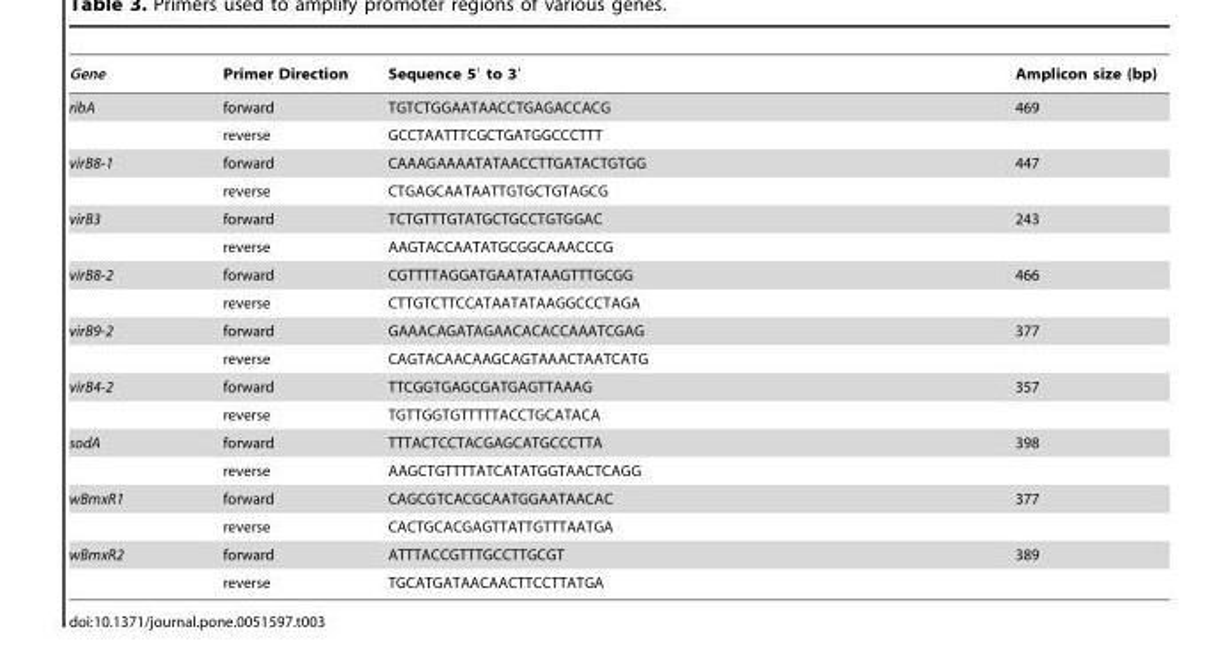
<table><thead><tr><td>Gene</td><td>Primer Direction</td><td>Sequence 5′ to 3′</td><td>Amplicon size (bp)</td></tr></thead><tbody><tr><td rowspan="2">ribA</td><td>forward</td><td>TGTCTGGAATAACCTGAGACCACG</td><td>469</td></tr><tr><td>reverse</td><td>GCCTAATTTCGCTGATGGCCCTTT</td><td></td></tr><tr><td rowspan="2">virB8-1</td><td>forward</td><td>CAAAGAAAATATAACCTTGATACTGTGG</td><td>447</td></tr><tr><td>reverse</td><td>CTGAGCAATAATTGTGCTGTAGCG</td><td></td></tr><tr><td rowspan="2">virB3</td><td>forward</td><td>TCTGTTTGTATGCTGCCTGTGGAC</td><td>243</td></tr><tr><td>reverse</td><td>AAGTACCAATATGCGGCAAACCCG</td><td></td></tr><tr><td rowspan="2">virB8-2</td><td>forward</td><td>CGTTTTAGGATGAATATAAGTTTGCGG</td><td>466</td></tr><tr><td>reverse</td><td>CTTGTCTTCCATAATATAAGGCCCTAGA</td><td></td></tr><tr><td rowspan="2">virB9-2</td><td>forward</td><td>GAAACAGATAGAACACACCAAATCGAG</td><td>377</td></tr><tr><td>reverse</td><td>CAGTACAACAAGCAGTAAACTAATCATG</td><td></td></tr><tr><td rowspan="2">virB4-2</td><td>forward</td><td>TTCGGTGAGCGATGAGTTAAAG</td><td>357</td></tr><tr><td>reverse</td><td>TGTTGGTGTTTTTACCTGCATACA</td><td></td></tr><tr><td rowspan="2">sodA</td><td>forward</td><td>TTTACTCCTACGAGCATGCCCTTA</td><td>398</td></tr><tr><td>reverse</td><td>AAGCTGTTTTATCATATGGTAACTCAGG</td><td></td></tr><tr><td rowspan="2">wBmxR1</td><td>forward</td><td>CAGCGTCACGCAATGGAATAACAC</td><td>377</td></tr><tr><td>reverse</td><td>CACTGCACGAGTTATTGTTTAATGA</td><td></td></tr><tr><td rowspan="2">wBmxR2</td><td>forward</td><td>ATTTACCGTTTGCCTTGCGT</td><td>389</td></tr><tr><td>reverse</td><td>TGCATGATAACAACTTCCTTATGA</td><td></td></tr></tbody></table>